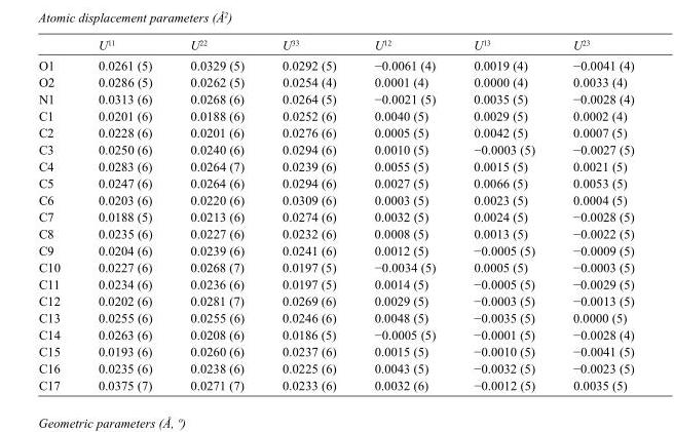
<table><thead><tr><td></td><td>U<sup>11</sup></td><td>U<sup>22</sup></td><td>U<sup>33</sup></td><td>U<sup>12</sup></td><td>U<sup>13</sup></td><td>U<sup>23</sup></td></tr></thead><tbody><tr><td>O1</td><td>0.0261 (5)</td><td>0.0329 (5)</td><td>0.0292 (5)</td><td>−0.0061 (4)</td><td>0.0019 (4)</td><td>−0.0041 (4)</td></tr><tr><td>O2</td><td>0.0286 (5)</td><td>0.0262 (5)</td><td>0.0254 (4)</td><td>0.0001 (4)</td><td>0.0000 (4)</td><td>0.0033 (4)</td></tr><tr><td>N1</td><td>0.0313 (6)</td><td>0.0268 (6)</td><td>0.0264 (5)</td><td>−0.0021 (5)</td><td>0.0035 (5)</td><td>−0.0028 (4)</td></tr><tr><td>C1</td><td>0.0201 (6)</td><td>0.0188 (6)</td><td>0.0252 (6)</td><td>0.0040 (5)</td><td>0.0029 (5)</td><td>0.0002 (4)</td></tr><tr><td>C2</td><td>0.0228 (6)</td><td>0.0201 (6)</td><td>0.0276 (6)</td><td>0.0005 (5)</td><td>0.0042 (5)</td><td>0.0007 (5)</td></tr><tr><td>C3</td><td>0.0250 (6)</td><td>0.0240 (6)</td><td>0.0294 (6)</td><td>0.0010 (5)</td><td>−0.0003 (5)</td><td>−0.0027 (5)</td></tr><tr><td>C4</td><td>0.0283 (6)</td><td>0.0264 (7)</td><td>0.0239 (6)</td><td>0.0055 (5)</td><td>0.0015 (5)</td><td>0.0021 (5)</td></tr><tr><td>C5</td><td>0.0247 (6)</td><td>0.0264 (6)</td><td>0.0294 (6)</td><td>0.0027 (5)</td><td>0.0066 (5)</td><td>0.0053 (5)</td></tr><tr><td>C6</td><td>0.0203 (6)</td><td>0.0220 (6)</td><td>0.0309 (6)</td><td>0.0003 (5)</td><td>0.0023 (5)</td><td>0.0004 (5)</td></tr><tr><td>C7</td><td>0.0188 (5)</td><td>0.0213 (6)</td><td>0.0274 (6)</td><td>0.0032 (5)</td><td>0.0024 (5)</td><td>−0.0028 (5)</td></tr><tr><td>C8</td><td>0.0235 (6)</td><td>0.0227 (6)</td><td>0.0232 (6)</td><td>0.0008 (5)</td><td>0.0013 (5)</td><td>−0.0022 (5)</td></tr><tr><td>C9</td><td>0.0204 (6)</td><td>0.0239 (6)</td><td>0.0241 (6)</td><td>0.0012 (5)</td><td>−0.0005 (5)</td><td>−0.0009 (5)</td></tr><tr><td>C10</td><td>0.0227 (6)</td><td>0.0268 (7)</td><td>0.0197 (5)</td><td>−0.0034 (5)</td><td>0.0005 (5)</td><td>−0.0003 (5)</td></tr><tr><td>C11</td><td>0.0234 (6)</td><td>0.0236 (6)</td><td>0.0197 (5)</td><td>0.0014 (5)</td><td>−0.0005 (5)</td><td>−0.0029 (5)</td></tr><tr><td>C12</td><td>0.0202 (6)</td><td>0.0281 (7)</td><td>0.0269 (6)</td><td>0.0029 (5)</td><td>−0.0003 (5)</td><td>−0.0013 (5)</td></tr><tr><td>C13</td><td>0.0255 (6)</td><td>0.0255 (6)</td><td>0.0246 (6)</td><td>0.0048 (5)</td><td>−0.0035 (5)</td><td>0.0000 (5)</td></tr><tr><td>C14</td><td>0.0263 (6)</td><td>0.0208 (6)</td><td>0.0186 (5)</td><td>−0.0005 (5)</td><td>−0.0001 (5)</td><td>−0.0028 (4)</td></tr><tr><td>C15</td><td>0.0193 (6)</td><td>0.0260 (6)</td><td>0.0237 (6)</td><td>0.0015 (5)</td><td>−0.0010 (5)</td><td>−0.0041 (5)</td></tr><tr><td>C16</td><td>0.0235 (6)</td><td>0.0238 (6)</td><td>0.0225 (6)</td><td>0.0043 (5)</td><td>−0.0032 (5)</td><td>−0.0023 (5)</td></tr><tr><td>C17</td><td>0.0375 (7)</td><td>0.0271 (7)</td><td>0.0233 (6)</td><td>0.0032 (6)</td><td>−0.0012 (5)</td><td>0.0035 (5)</td></tr></tbody></table>